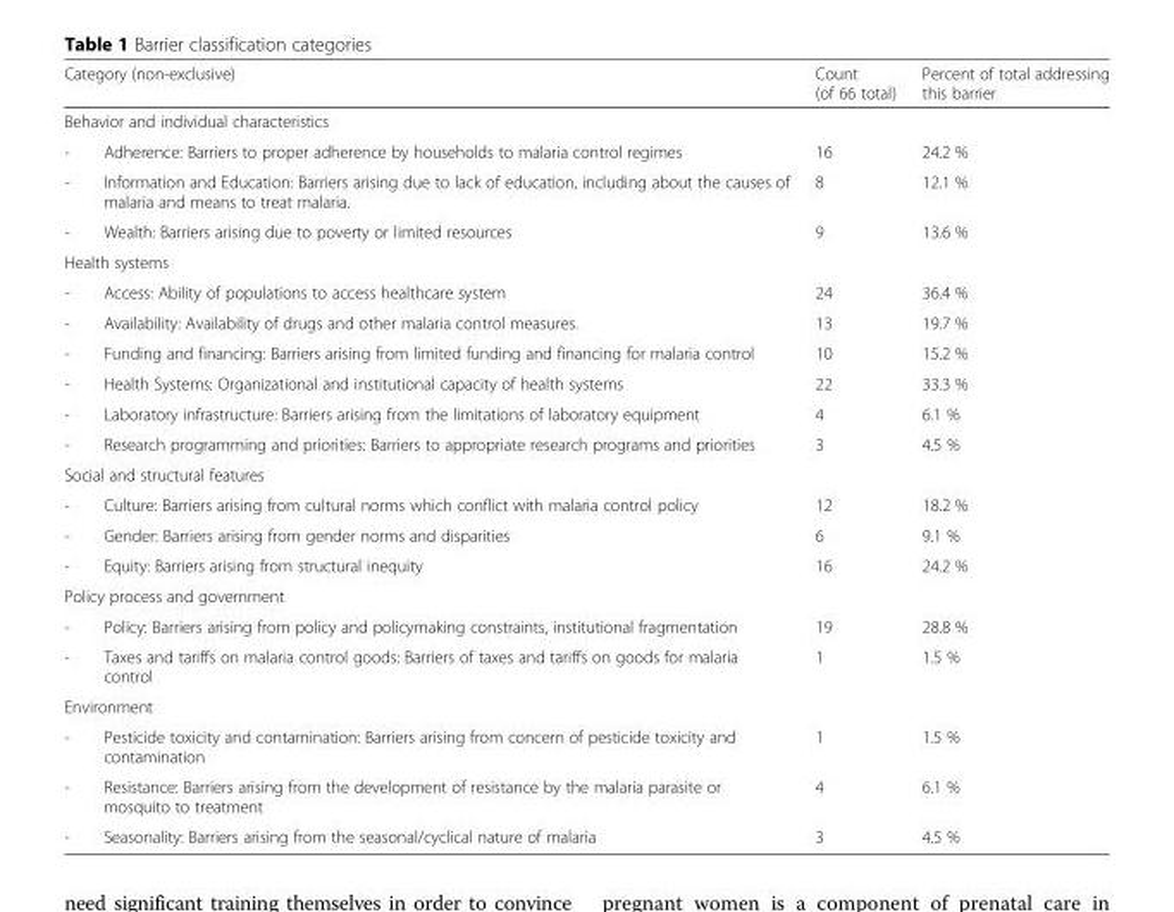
<table><thead><tr><td>Category (non-exclusive)</td><td>Count (of 66 total)</td><td>Percent of total addressing this barrier</td></tr></thead><tbody><tr><td colspan="3">Behavior and individual characteristics</td></tr><tr><td>- Adherence: Barriers to proper adherence by households to malaria control regimes</td><td>16</td><td>24.2 %</td></tr><tr><td>- Information and Education: Barriers arising due to lack of education, including about the causes of malaria and means to treat malaria.</td><td>8</td><td>12.1 %</td></tr><tr><td>- Wealth: Barriers arising due to poverty or limited resources</td><td>9</td><td>13.6 %</td></tr><tr><td colspan="3">Health systems</td></tr><tr><td>- Access: Ability of populations to access healthcare system</td><td>24</td><td>36.4 %</td></tr><tr><td>- Availability: Availability of drugs and other malaria control measures.</td><td>13</td><td>19.7 %</td></tr><tr><td>- Funding and financing: Barriers arising from limited funding and financing for malaria control</td><td>10</td><td>15.2 %</td></tr><tr><td>- Health Systems: Organizational and institutional capacity of health systems</td><td>22</td><td>33.3 %</td></tr><tr><td>- Laboratory infrastructure: Barriers arising from the limitations of laboratory equipment</td><td>4</td><td>6.1 %</td></tr><tr><td>- Research programming and priorities: Barriers to appropriate research programs and priorities</td><td>3</td><td>4.5 %</td></tr><tr><td colspan="3">Social and structural features</td></tr><tr><td>- Culture: Barriers arising from cultural norms which conflict with malaria control policy</td><td>12</td><td>18.2 %</td></tr><tr><td>- Gender: Barriers arising from gender norms and disparities</td><td>6</td><td>9.1 %</td></tr><tr><td>- Equity: Barriers arising from structural inequity</td><td>16</td><td>24.2 %</td></tr><tr><td colspan="3">Policy process and government</td></tr><tr><td>- Policy: Barriers arising from policy and policymaking constraints, institutional fragmentation</td><td>19</td><td>28.8 %</td></tr><tr><td>- Taxes and tariffs on malaria control goods: Barriers of taxes and tariffs on goods for malaria control</td><td>1</td><td>1.5 %</td></tr><tr><td colspan="3">Environment</td></tr><tr><td>- Pesticide toxicity and contamination: Barriers arising from concern of pesticide toxicity and contamination</td><td>1</td><td>1.5 %</td></tr><tr><td>- Resistance: Barriers arising from the development of resistance by the malaria parasite or mosquito to treatment</td><td>4</td><td>6.1 %</td></tr><tr><td>- Seasonality: Barriers arising from the seasonal/cyclical nature of malaria</td><td>3</td><td>4.5 %</td></tr></tbody></table>